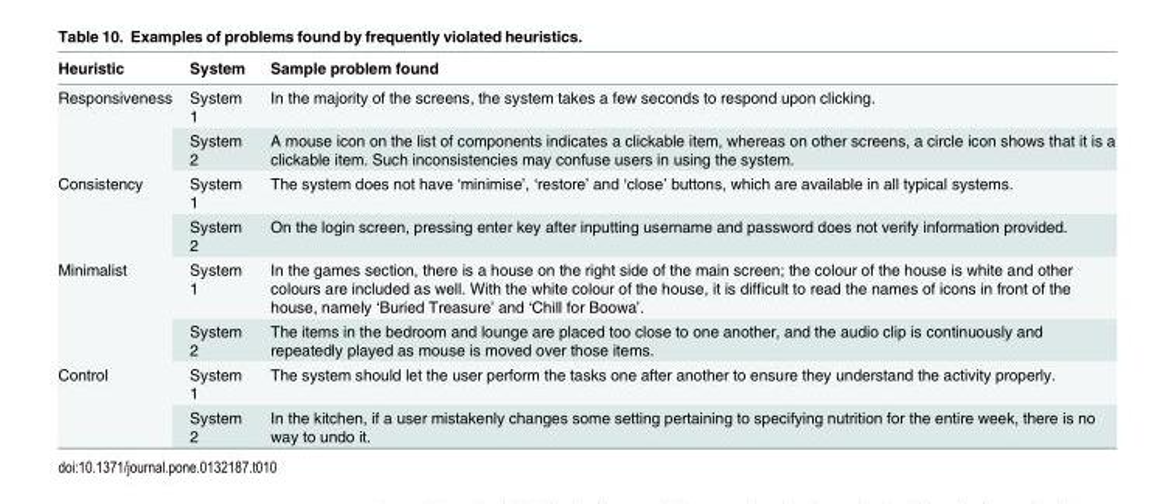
<table><thead><tr><td>Heuristic</td><td>System</td><td>Sample problem found</td></tr></thead><tbody><tr><td rowspan="2">Responsiveness</td><td>System 1</td><td>In the majority of the screens, the system takes a few seconds to respond upon clicking.</td></tr><tr><td>System 2</td><td>A mouse icon on the list of components indicates a clickable item, whereas on other screens, a circle icon shows that it is a clickable item. Such inconsistencies may confuse users in using the system.</td></tr><tr><td rowspan="2">Consistency</td><td>System 1</td><td>The system does not have ‘minimise’, ‘restore’ and ‘close’ buttons, which are available in all typical systems.</td></tr><tr><td>System 2</td><td>On the login screen, pressing enter key after inputting username and password does not verify information provided.</td></tr><tr><td rowspan="2">Minimalist</td><td>System 1</td><td>In the games section, there is a house on the right side of the main screen; the colour of the house is white and other colours are included as well. With the white colour of the house, it is difficult to read the names of icons in front of the house, namely ‘Buried Treasure’ and ‘Chill for Boowa’.</td></tr><tr><td>System 2</td><td>The items in the bedroom and lounge are placed too close to one another, and the audio clip is continuously and repeatedly played as mouse is moved over those items.</td></tr><tr><td rowspan="2">Control</td><td>System 1</td><td>The system should let the user perform the tasks one after another to ensure they understand the activity properly.</td></tr><tr><td>System 2</td><td>In the kitchen, if a user mistakenly changes some setting pertaining to specifying nutrition for the entire week, there is no way to undo it.</td></tr></tbody></table>